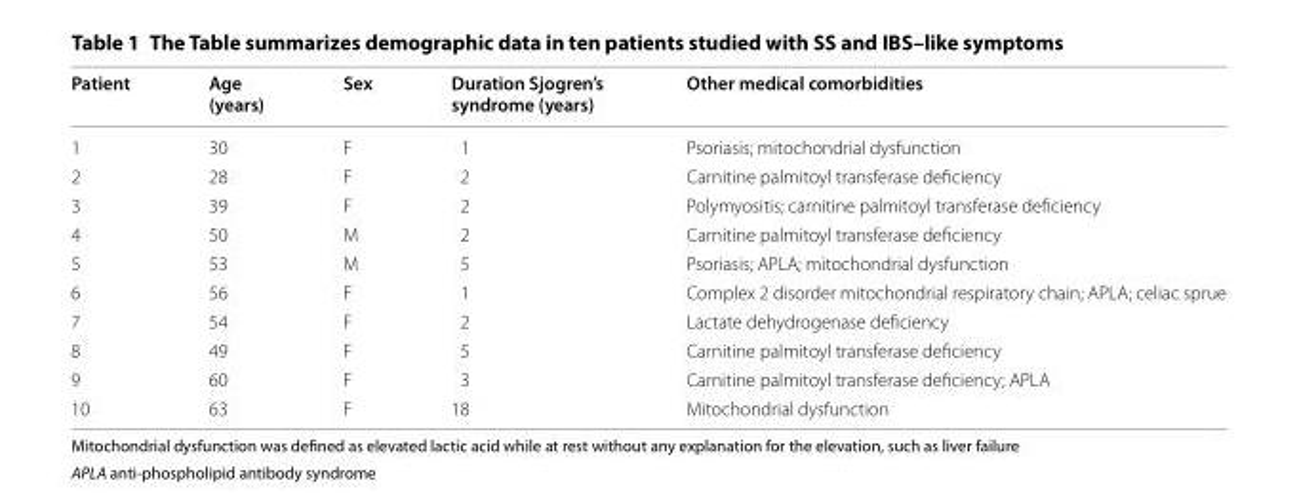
<table><thead><tr><td>Patient</td><td>Age (years)</td><td>Sex</td><td>Duration Sjogren’s syndrome (years)</td><td>Other medical comorbidities</td></tr></thead><tbody><tr><td>1</td><td>30</td><td>F</td><td>1</td><td>Psoriasis; mitochondrial dysfunction</td></tr><tr><td>2</td><td>28</td><td>F</td><td>2</td><td>Carnitine palmitoyl transferase deficiency</td></tr><tr><td>3</td><td>39</td><td>F</td><td>2</td><td>Polymyositis; carnitine palmitoyl transferase deficiency</td></tr><tr><td>4</td><td>50</td><td>M</td><td>2</td><td>Carnitine palmitoyl transferase deficiency</td></tr><tr><td>5</td><td>53</td><td>M</td><td>5</td><td>Psoriasis; APLA; mitochondrial dysfunction</td></tr><tr><td>6</td><td>56</td><td>F</td><td>1</td><td>Complex 2 disorder mitochondrial respiratory chain; APLA; celiac sprue</td></tr><tr><td>7</td><td>54</td><td>F</td><td>2</td><td>Lactate dehydrogenase deficiency</td></tr><tr><td>8</td><td>49</td><td>F</td><td>5</td><td>Carnitine palmitoyl transferase deficiency</td></tr><tr><td>9</td><td>60</td><td>F</td><td>3</td><td>Carnitine palmitoyl transferase deficiency; APLA</td></tr><tr><td>10</td><td>63</td><td>F</td><td>18</td><td>Mitochondrial dysfunction</td></tr></tbody></table>